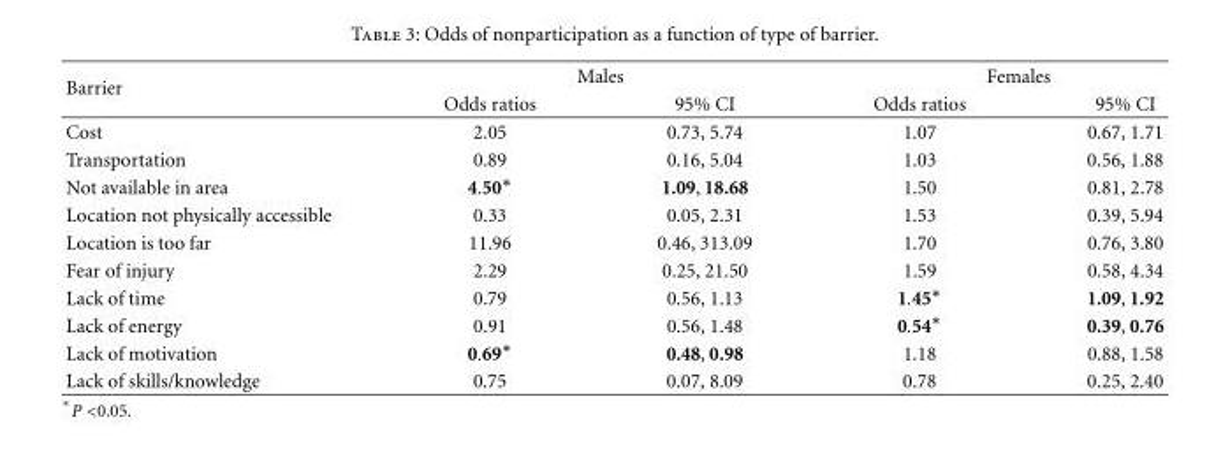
<table><thead><tr><td rowspan="2">Barrier</td><td colspan="2">Males</td><td colspan="2">Females</td></tr><tr><td>Odds ratios</td><td>95% CI</td><td>Odds ratios</td><td>95% CI</td></tr></thead><tbody><tr><td>Cost</td><td>2.05</td><td>0.73, 5.74</td><td>1.07</td><td>0.67, 1.71</td></tr><tr><td>Transportation</td><td>0.89</td><td>0.16, 5.04</td><td>1.03</td><td>0.56, 1.88</td></tr><tr><td>Not available in area</td><td>4.50∗</td><td>1.09, 18.68</td><td>1.50</td><td>0.81, 2.78</td></tr><tr><td>Location not physically accessible</td><td>0.33</td><td>0.05, 2.31</td><td>1.53</td><td>0.39, 5.94</td></tr><tr><td>Location is too far</td><td>11.96</td><td>0.46, 313.09</td><td>1.70</td><td>0.76, 3.80</td></tr><tr><td>Fear of injury</td><td>2.29</td><td>0.25, 21.50</td><td>1.59</td><td>0.58, 4.34</td></tr><tr><td>Lack of time</td><td>0.79</td><td>0.56, 1.13</td><td>1.45∗</td><td>1.09, 1.92</td></tr><tr><td>Lack of energy</td><td>0.91</td><td>0.56, 1.48</td><td>0.54∗</td><td>0.39, 0.76</td></tr><tr><td>Lack of motivation</td><td>0.69∗</td><td>0.48, 0.98</td><td>1.18</td><td>0.88, 1.58</td></tr><tr><td>Lack of skills/knowledge</td><td>0.75</td><td>0.07, 8.09</td><td>0.78</td><td>0.25, 2.40</td></tr></tbody></table>